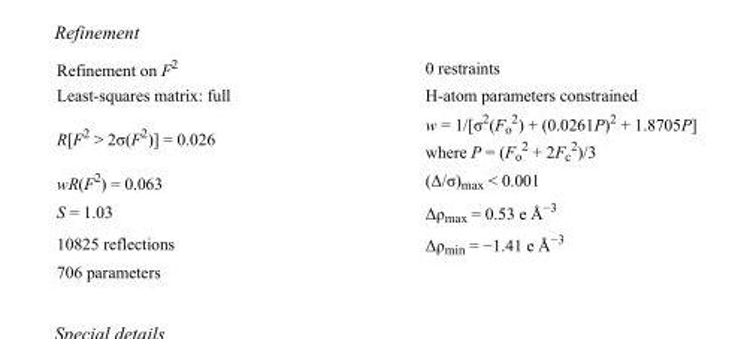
<table><tbody><tr><td>Refinement on F<sup>2</sup></td><td>0 restraints</td></tr><tr><td>Least-squares matrix: full</td><td>H-atom parameters constrained</td></tr><tr><td>R[F<sup>2</sup> &gt; 2σ(F<sup>2</sup>)] = 0.026</td><td>w = 1/[σ<sup>2</sup>(F<sub>o</sub> <sup>2</sup>) + (0.0261P)<sup>2</sup> + 1.8705P] where P = (F<sub>o</sub> <sup>2</sup> + 2F<sub>c</sub> <sup>2</sup>)/3</td></tr><tr><td>wR(F<sup>2</sup>) = 0.063</td><td>(Δ/σ)<sub>max</sub> &lt; 0.001</td></tr><tr><td>S = 1.03</td><td>Δρ<sub>max</sub> = 0.53 e Å<sup>−3</sup></td></tr><tr><td>10825 reflections</td><td>Δρ<sub>min</sub> = −1.41 e Å<sup>−3</sup></td></tr><tr><td>706 parameters</td><td></td></tr></tbody></table>